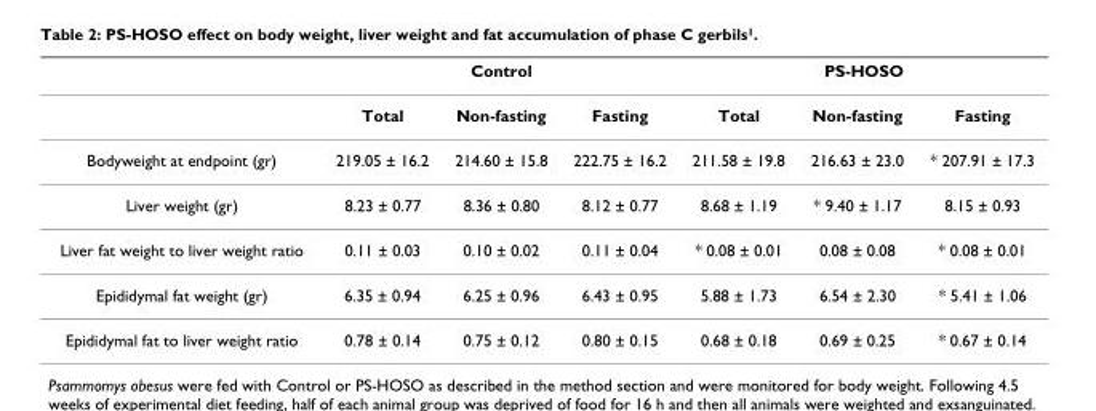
<table><thead><tr><td rowspan="2"></td><td colspan="3">Control</td><td colspan="3">PS-HOSO</td></tr><tr><td>Total</td><td>Non-fasting</td><td>Fasting</td><td>Total</td><td>Non-fasting</td><td>Fasting</td></tr></thead><tbody><tr><td>Bodyweight at endpoint (gr)</td><td>219.05 ± 16.2</td><td>214.60 ± 15.8</td><td>222.75 ± 16.2</td><td>211.58 ± 19.8</td><td>216.63 ± 23.0</td><td>* 207.91 ± 17.3</td></tr><tr><td>Liver weight (gr)</td><td>8.23 ± 0.77</td><td>8.36 ± 0.80</td><td>8.12 ± 0.77</td><td>8.68 ± 1.19</td><td>* 9.40 ± 1.17</td><td>8.15 ± 0.93</td></tr><tr><td>Liver fat weight to liver weight ratio</td><td>0.11 ± 0.03</td><td>0.10 ± 0.02</td><td>0.11 ± 0.04</td><td>* 0.08 ± 0.01</td><td>0.08 ± 0.08</td><td>* 0.08 ± 0.01</td></tr><tr><td>Epididymal fat weight (gr)</td><td>6.35 ± 0.94</td><td>6.25 ± 0.96</td><td>6.43 ± 0.95</td><td>5.88 ± 1.73</td><td>6.54 ± 2.30</td><td>* 5.41 ± 1.06</td></tr><tr><td>Epididymal fat to liver weight ratio</td><td>0.78 ± 0.14</td><td>0.75 ± 0.12</td><td>0.80 ± 0.15</td><td>0.68 ± 0.18</td><td>0.69 ± 0.25</td><td>* 0.67 ± 0.14</td></tr></tbody></table>